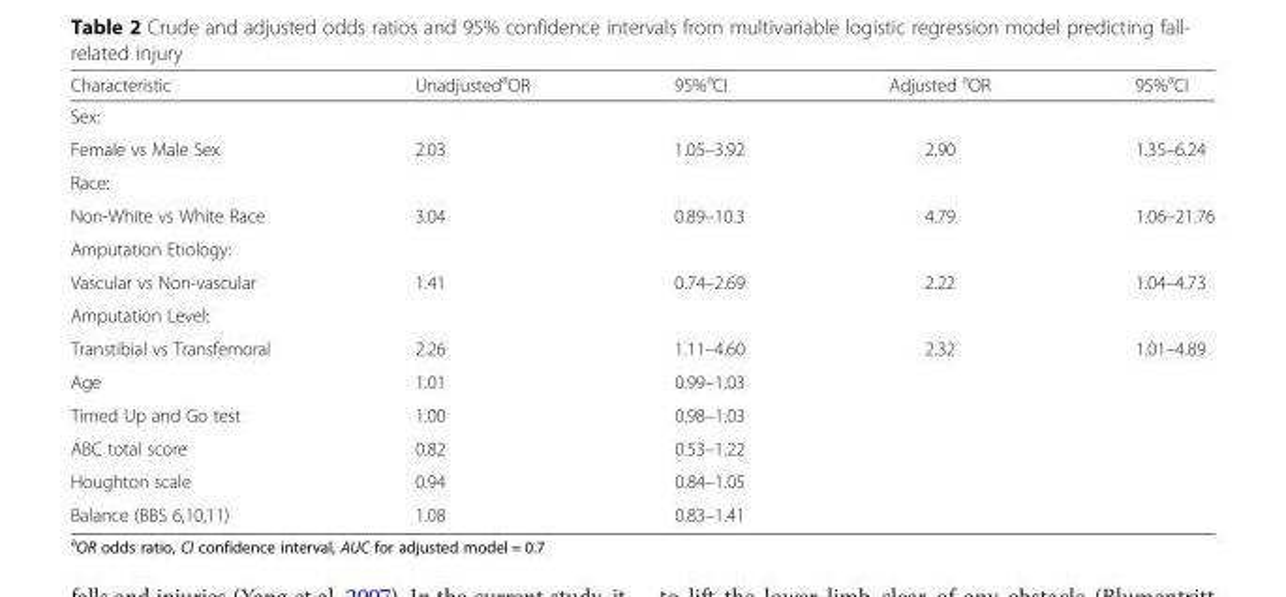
<table><thead><tr><td>Characteristic</td><td>Unadjusted<sup>a</sup>OR</td><td>95%<sup>a</sup>CI</td><td>Adjusted <sup>a</sup>OR</td><td>95%<sup>a</sup>CI</td></tr></thead><tbody><tr><td colspan="5">Sex:</td></tr><tr><td>Female vs Male Sex</td><td>2.03</td><td>1.05–3.92</td><td>2.90</td><td>1.35–6.24</td></tr><tr><td colspan="5">Race:</td></tr><tr><td>Non-White vs White Race</td><td>3.04</td><td>0.89–10.3</td><td>4.79</td><td>1.06–21.76</td></tr><tr><td colspan="5">Amputation Etiology:</td></tr><tr><td>Vascular vs Non-vascular</td><td>1.41</td><td>0.74–2.69</td><td>2.22</td><td>1.04–4.73</td></tr><tr><td colspan="5">Amputation Level:</td></tr><tr><td>Transtibial vs Transfemoral</td><td>2.26</td><td>1.11–4.60</td><td>2.32</td><td>1.01–4.89</td></tr><tr><td>Age</td><td>1.01</td><td>0.99–1.03</td><td></td><td></td></tr><tr><td>Timed Up and Go test</td><td>1.00</td><td>0.98–1.03</td><td></td><td></td></tr><tr><td>ABC total score</td><td>0.82</td><td>0.53–1.22</td><td></td><td></td></tr><tr><td>Houghton scale</td><td>0.94</td><td>0.84–1.05</td><td></td><td></td></tr><tr><td>Balance (BBS 6,10,11)</td><td>1.08</td><td>0.83–1.41</td><td></td><td></td></tr></tbody></table>